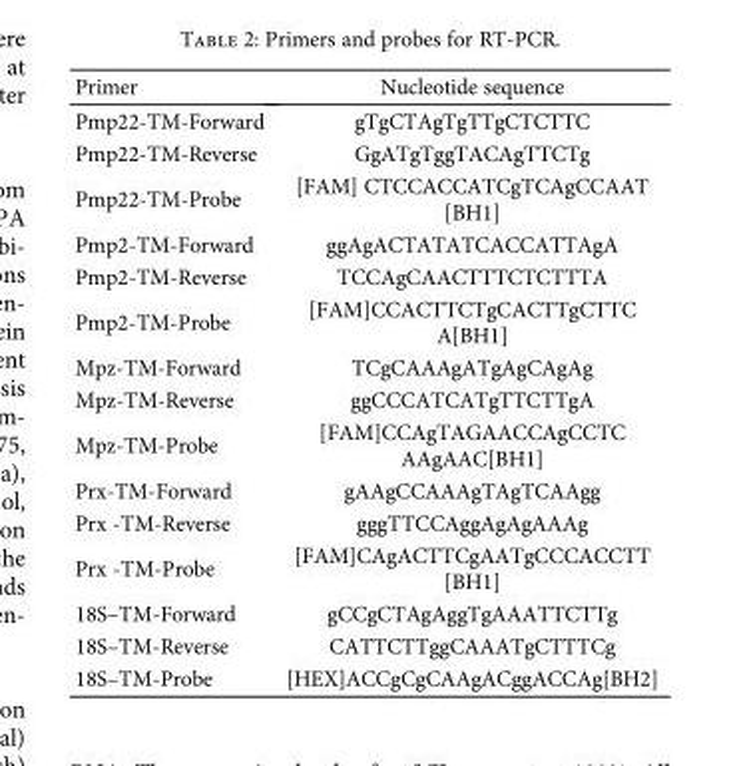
<table><thead><tr><td>Primer</td><td>Nucleotide sequence</td></tr></thead><tbody><tr><td>Pmp22-TM-Forward</td><td>gTgCTAgTgTTgCTCTTC</td></tr><tr><td>Pmp22-TM-Reverse</td><td>GgATgTggTACAgTTCTg</td></tr><tr><td>Pmp22-TM-Probe</td><td>[FAM] CTCCACCATCgTCAgCCAAT [BH1]</td></tr><tr><td>Pmp2-TM-Forward</td><td>ggAgACTATATCACCATTAgA</td></tr><tr><td>Pmp2-TM-Reverse</td><td>TCCAgCAACTTTCTCTTTA</td></tr><tr><td>Pmp2-TM-Probe</td><td>[FAM]CCACTTCTgCACTTgCTTC A[BH1]</td></tr><tr><td>Mpz-TM-Forward</td><td>TCgCAAAgATgAgCAgAg</td></tr><tr><td>Mpz-TM-Reverse</td><td>ggCCCATCATgTTCTTgA</td></tr><tr><td>Mpz-TM-Probe</td><td>[FAM]CCAgTAGAACCAgCCTC AAgAAC[BH1]</td></tr><tr><td>Prx-TM-Forward</td><td>gAAgCCAAAgTAgTCAAgg</td></tr><tr><td>Prx -TM-Reverse</td><td>gggTTCCAggAgAgAAAg</td></tr><tr><td>Prx -TM-Probe</td><td>[FAM]CAgACTTCgAATgCCCACCTT [BH1]</td></tr><tr><td>18S–TM-Forward</td><td>gCCgCTAgAggTgAAATTCTTg</td></tr><tr><td>18S–TM-Reverse</td><td>CATTCTTggCAAATgCTTTCg</td></tr><tr><td>18S–TM-Probe</td><td>[HEX]ACCgCgCAAgACggACCAg[BH2]</td></tr></tbody></table>